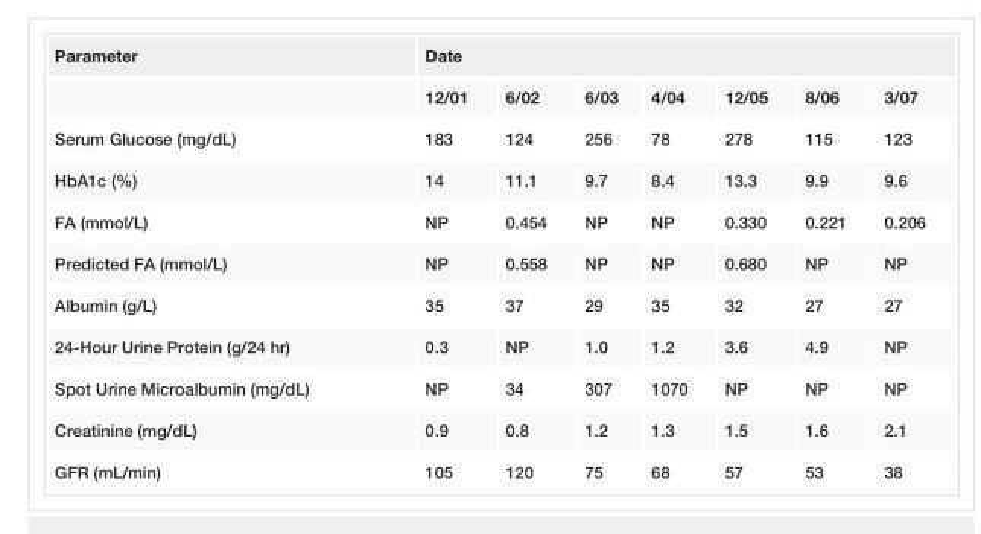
<table><tbody><tr><td rowspan="2">Parameter</td><td colspan="7">Date</td></tr><tr><td>12/01</td><td>6/02</td><td>6/03</td><td>4/04</td><td>12/05</td><td>8/06</td><td>3/07</td></tr><tr><td>Serum Glucose (mg/dL)</td><td>183</td><td>124</td><td>256</td><td>78</td><td>278</td><td>115</td><td>123</td></tr><tr><td>HbA1c (%)</td><td>14</td><td>11.1</td><td>9.7</td><td>8.4</td><td>13.3</td><td>9.9</td><td>9.6</td></tr><tr><td>FA (mmol/L)</td><td>NP</td><td>0.454</td><td>NP</td><td>NP</td><td>0.330</td><td>0.221</td><td>0.206</td></tr><tr><td>Predicted FA (mmol/L)</td><td>NP</td><td>0.558</td><td>NP</td><td>NP</td><td>0.680</td><td>NP</td><td>NP</td></tr><tr><td>Albumin (g/L)</td><td>35</td><td>37</td><td>29</td><td>35</td><td>32</td><td>27</td><td>27</td></tr><tr><td>24-Hour Urine Protein (g/24 hr)</td><td>0.3</td><td>NP</td><td>1.0</td><td>1.2</td><td>3.6</td><td>4.9</td><td>NP</td></tr><tr><td>Spot Urine Microalbumin (mg/dL)</td><td>NP</td><td>34</td><td>307</td><td>1070</td><td>NP</td><td>NP</td><td>NP</td></tr><tr><td>Creatinine (mg/dL)</td><td>0.9</td><td>0.8</td><td>1.2</td><td>1.3</td><td>1.5</td><td>1.6</td><td>2.1</td></tr><tr><td>GFR (mL/min)</td><td>105</td><td>120</td><td>75</td><td>68</td><td>57</td><td>53</td><td>38</td></tr></tbody></table>